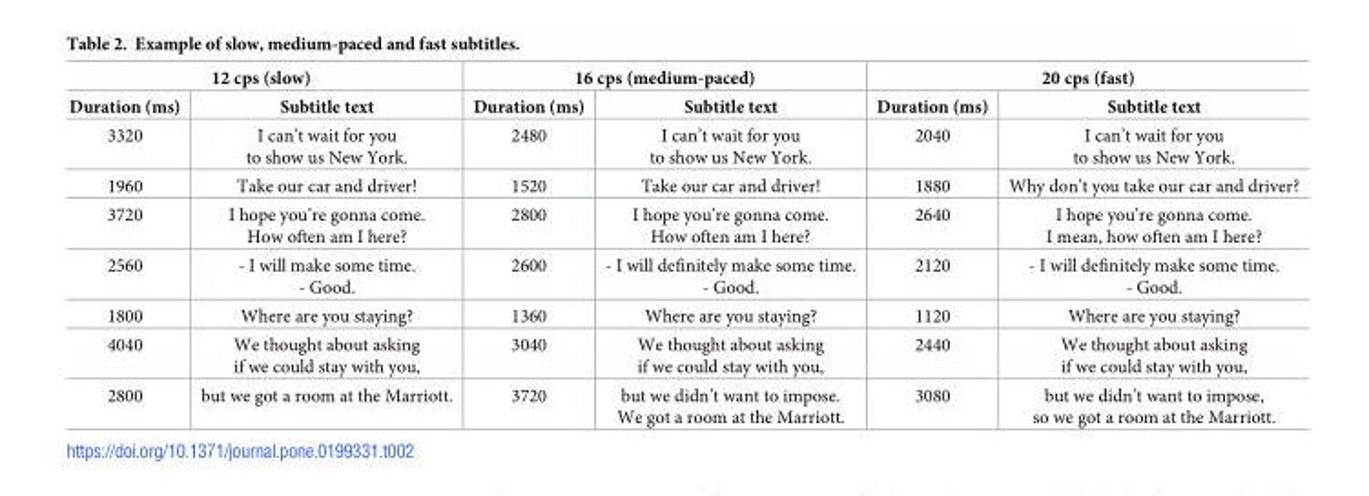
<table><thead><tr><td colspan="2">12 cps (slow)</td><td colspan="2">16 cps (medium-paced)</td><td colspan="2">20 cps (fast)</td></tr><tr><td>Duration (ms)</td><td>Subtitle text</td><td>Duration (ms)</td><td>Subtitle text</td><td>Duration (ms)</td><td>Subtitle text</td></tr></thead><tbody><tr><td>3320</td><td>I can’t wait for you to show us New York.</td><td>2480</td><td>I can’t wait for you to show us New York.</td><td>2040</td><td>I can’t wait for you to show us New York.</td></tr><tr><td>1960</td><td>Take our car and driver!</td><td>1520</td><td>Take our car and driver!</td><td>1880</td><td>Why don’t you take our car and driver?</td></tr><tr><td>3720</td><td>I hope you’re gonna come. How often am I here?</td><td>2800</td><td>I hope you’re gonna come. How often am I here?</td><td>2640</td><td>I hope you’re gonna come. I mean, how often am I here?</td></tr><tr><td>2560</td><td>- I will make some time. - Good.</td><td>2600</td><td>- I will definitely make some time. - Good.</td><td>2120</td><td>- I will definitely make some time. - Good.</td></tr><tr><td>1800</td><td>Where are you staying?</td><td>1360</td><td>Where are you staying?</td><td>1120</td><td>Where are you staying?</td></tr><tr><td>4040</td><td>We thought about asking if we could stay with you,</td><td>3040</td><td>We thought about asking if we could stay with you,</td><td>2440</td><td>We thought about asking if we could stay with you,</td></tr><tr><td>2800</td><td>but we got a room at the Marriott.</td><td>3720</td><td>but we didn’t want to impose. We got a room at the Marriott.</td><td>3080</td><td>but we didn’t want to impose, so we got a room at the Marriott.</td></tr></tbody></table>